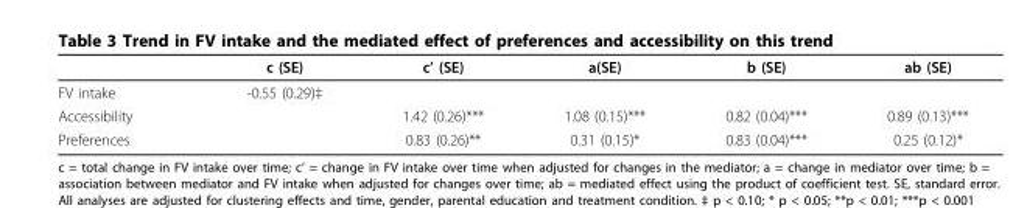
<table><thead><tr><td></td><td>c (SE)</td><td>c’ (SE)</td><td>a(SE)</td><td>b (SE)</td><td>ab (SE)</td></tr></thead><tbody><tr><td>FV intake</td><td>-0.55 (0.29)‡</td><td></td><td></td><td></td><td></td></tr><tr><td>Accessibility</td><td></td><td>1.42 (0.26)***</td><td>1.08 (0.15)***</td><td>0.82 (0.04)***</td><td>0.89 (0.13)***</td></tr><tr><td>Preferences</td><td></td><td>0.83 (0.26)**</td><td>0.31 (0.15)*</td><td>0.83 (0.04)***</td><td>0.25 (0.12)*</td></tr></tbody></table>